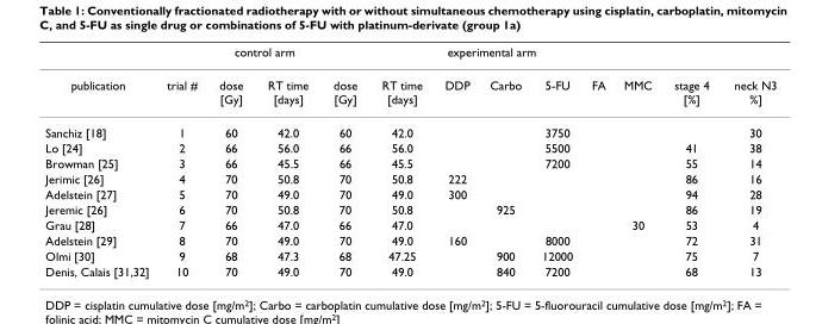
<table><thead><tr><td rowspan="2">publication</td><td rowspan="2">trial #</td><td colspan="2">control arm</td><td colspan="7">experimental arm</td><td rowspan="2">stage 4 [%]</td><td rowspan="2">neck N3 %]</td></tr><tr><td>dose [Gy]</td><td>RT time [days]</td><td>dose [Gy]</td><td>RT time [days]</td><td>DDP</td><td>Carbo</td><td>5-FU</td><td>FA</td><td>MMC</td></tr></thead><tbody><tr><td>Sanchiz [18]</td><td>1</td><td>60</td><td>42.0</td><td>60</td><td>42.0</td><td></td><td></td><td>3750</td><td></td><td></td><td></td><td>30</td></tr><tr><td>Lo [24]</td><td>2</td><td>66</td><td>56.0</td><td>66</td><td>56.0</td><td></td><td></td><td>5500</td><td></td><td></td><td>41</td><td>38</td></tr><tr><td>Browman [25]</td><td>3</td><td>66</td><td>45.5</td><td>66</td><td>45.5</td><td></td><td></td><td>7200</td><td></td><td></td><td>55</td><td>14</td></tr><tr><td>Jerimic [26]</td><td>4</td><td>70</td><td>50.8</td><td>70</td><td>50.8</td><td>222</td><td></td><td></td><td></td><td></td><td>86</td><td>16</td></tr><tr><td>Adelstein [27]</td><td>5</td><td>70</td><td>49.0</td><td>70</td><td>49.0</td><td>300</td><td></td><td></td><td></td><td></td><td>94</td><td>28</td></tr><tr><td>Jeremic [26]</td><td>6</td><td>70</td><td>50.8</td><td>70</td><td>50.8</td><td></td><td>925</td><td></td><td></td><td></td><td>86</td><td>19</td></tr><tr><td>Grau [28]</td><td>7</td><td>66</td><td>47.0</td><td>66</td><td>47.0</td><td></td><td></td><td></td><td></td><td>30</td><td>53</td><td>4</td></tr><tr><td>Adelstein [29]</td><td>8</td><td>70</td><td>49.0</td><td>70</td><td>49.0</td><td>160</td><td></td><td>8000</td><td></td><td></td><td>72</td><td>31</td></tr><tr><td>Olmi [30]</td><td>9</td><td>68</td><td>47.3</td><td>68</td><td>47.25</td><td></td><td>900</td><td>12000</td><td></td><td></td><td>75</td><td>7</td></tr><tr><td>Denis, Calais [31,32]</td><td>10</td><td>70</td><td>49.0</td><td>70</td><td>49.0</td><td></td><td>840</td><td>7200</td><td></td><td></td><td>68</td><td>13</td></tr></tbody></table>